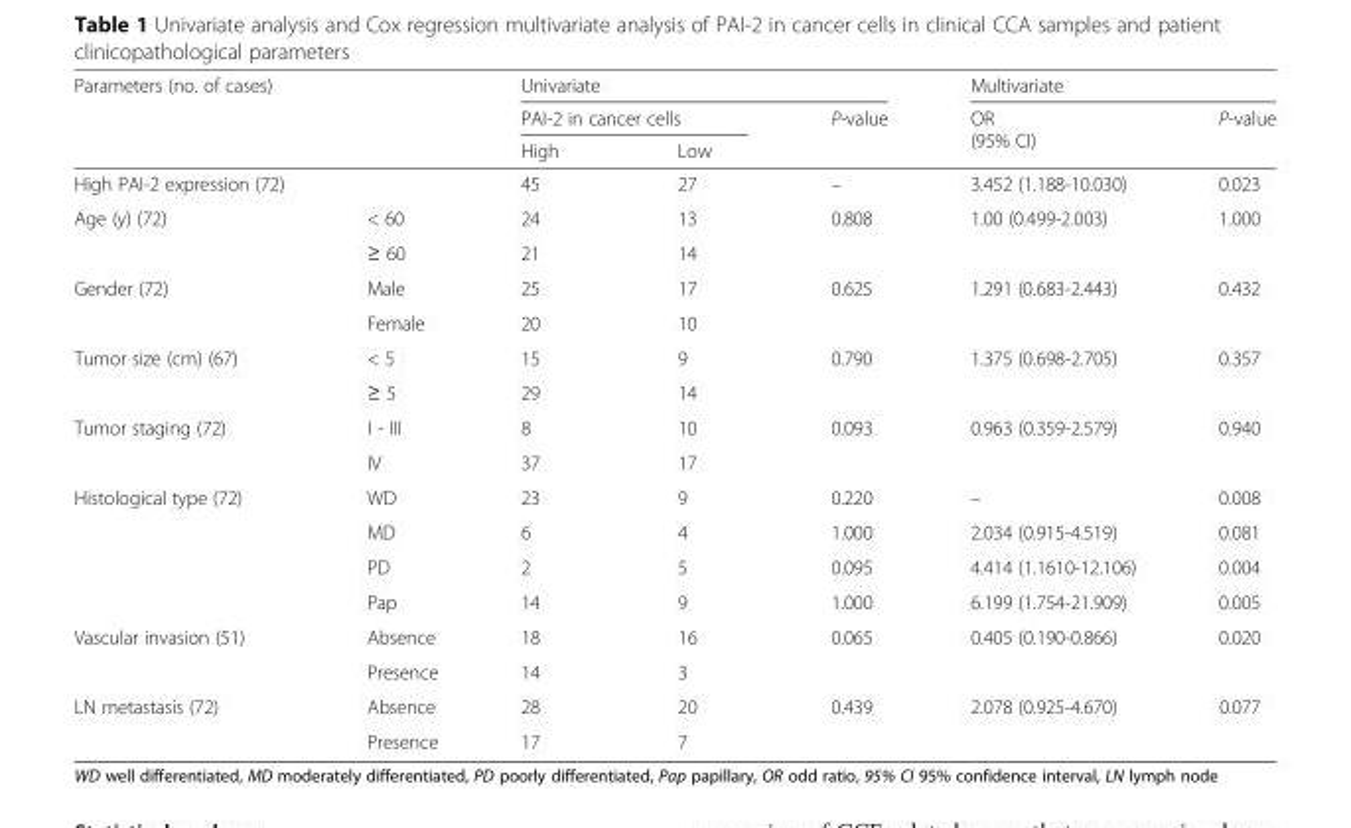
<table><thead><tr><td rowspan="3" colspan="2">Parameters (no. of cases)</td><td colspan="3">Univariate</td><td colspan="2">Multivariate</td></tr><tr><td colspan="2">PAI-2 in cancer cells</td><td rowspan="3">P-value –</td><td rowspan="3">OR (95% CI) 3.452 (1.188-10.030)</td><td rowspan="3">P-value 0.023</td></tr><tr><td rowspan="2">High 45</td><td rowspan="2">Low 27</td></tr><tr><td>High PAI-2 expression (72)</td><td></td></tr></thead><tbody><tr><td rowspan="2">Age (y) (72)</td><td>&lt; 60</td><td>24</td><td>13</td><td rowspan="2">0.808</td><td rowspan="2">1.00 (0.499-2.003)</td><td rowspan="2">1.000</td></tr><tr><td>≥ 60</td><td>21</td><td>14</td></tr><tr><td rowspan="2">Gender (72)</td><td>Male</td><td>25</td><td>17</td><td rowspan="2">0.625</td><td rowspan="2">1.291 (0.683-2.443)</td><td rowspan="2">0.432</td></tr><tr><td>Female</td><td>20</td><td>10</td></tr><tr><td rowspan="2">Tumor size (cm) (67)</td><td>&lt; 5</td><td>15</td><td>9</td><td rowspan="2">0.790</td><td rowspan="2">1.375 (0.698-2.705)</td><td rowspan="2">0.357</td></tr><tr><td>≥ 5</td><td>29</td><td>14</td></tr><tr><td rowspan="2">Tumor staging (72)</td><td>I - III</td><td>8</td><td>10</td><td rowspan="2">0.093</td><td rowspan="2">0.963 (0.359-2.579)</td><td rowspan="2">0.940</td></tr><tr><td>IV</td><td>37</td><td>17</td></tr><tr><td rowspan="4">Histological type (72)</td><td>WD</td><td>23</td><td>9</td><td>0.220</td><td>–</td><td>0.008</td></tr><tr><td>MD</td><td>6</td><td>4</td><td>1.000</td><td>2.034 (0.915-4.519)</td><td>0.081</td></tr><tr><td>PD</td><td>2</td><td>5</td><td>0.095</td><td>4.414 (1.1610-12.106)</td><td>0.004</td></tr><tr><td>Pap</td><td>14</td><td>9</td><td>1.000</td><td>6.199 (1.754-21.909)</td><td>0.005</td></tr><tr><td rowspan="2">Vascular invasion (51)</td><td>Absence</td><td>18</td><td>16</td><td rowspan="2">0.065</td><td rowspan="2">0.405 (0.190-0.866)</td><td rowspan="2">0.020</td></tr><tr><td>Presence</td><td>14</td><td>3</td></tr><tr><td rowspan="2">LN metastasis (72)</td><td>Absence</td><td>28</td><td>20</td><td rowspan="2">0.439</td><td rowspan="2">2.078 (0.925-4.670)</td><td rowspan="2">0.077</td></tr><tr><td>Presence</td><td>17</td><td>7</td></tr></tbody></table>